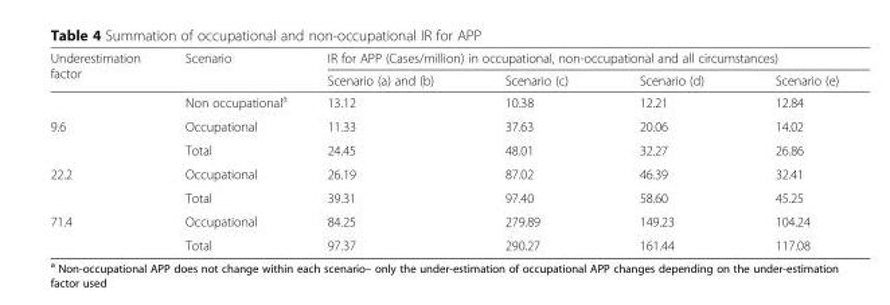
<table><thead><tr><td rowspan="2">Underestimation factor</td><td rowspan="2">Scenario</td><td colspan="4">IR for APP (Cases/million) in occupational, non-occupational and all circumstances)</td></tr><tr><td>Scenario (a) and (b)</td><td>Scenario (c)</td><td>Scenario (d)</td><td>Scenario (e)</td></tr></thead><tbody><tr><td></td><td>Non occupational<sup>a</sup></td><td>13.12</td><td>10.38</td><td>12.21</td><td>12.84</td></tr><tr><td rowspan="2">9.6</td><td>Occupational</td><td>11.33</td><td>37.63</td><td>20.06</td><td>14.02</td></tr><tr><td>Total</td><td>24.45</td><td>48.01</td><td>32.27</td><td>26.86</td></tr><tr><td rowspan="2">22.2</td><td>Occupational</td><td>26.19</td><td>87.02</td><td>46.39</td><td>32.41</td></tr><tr><td>Total</td><td>39.31</td><td>97.40</td><td>58.60</td><td>45.25</td></tr><tr><td rowspan="2">71.4</td><td>Occupational</td><td>84.25</td><td>279.89</td><td>149.23</td><td>104.24</td></tr><tr><td>Total</td><td>97.37</td><td>290.27</td><td>161.44</td><td>117.08</td></tr></tbody></table>